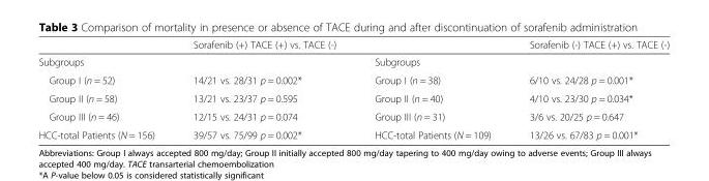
<table><thead><tr><td></td><td>Sorafenib (+) TACE (+) vs. TACE (-)</td><td></td><td>Sorafenib (-) TACE (+) vs. TACE (-)</td></tr></thead><tbody><tr><td>Subgroups</td><td></td><td>Subgroups</td><td></td></tr><tr><td>Group I (n = 52)</td><td>14/21 vs. 28/31 p = 0.002*</td><td>Group I (n = 38)</td><td>6/10 vs. 24/28 p = 0.001*</td></tr><tr><td>Group II (n = 58)</td><td>13/21 vs. 23/37 p = 0.595</td><td>Group II (n = 40)</td><td>4/10 vs. 23/30 p = 0.034*</td></tr><tr><td>Group III (n = 46)</td><td>12/15 vs. 24/31 p = 0.074</td><td>Group III (n = 31)</td><td>3/6 vs. 20/25 p = 0.647</td></tr><tr><td>HCC-total Patients (N = 156)</td><td>39/57 vs. 75/99 p = 0.002*</td><td>HCC-total Patients (N = 109)</td><td>13/26 vs. 67/83 p = 0.001*</td></tr></tbody></table>